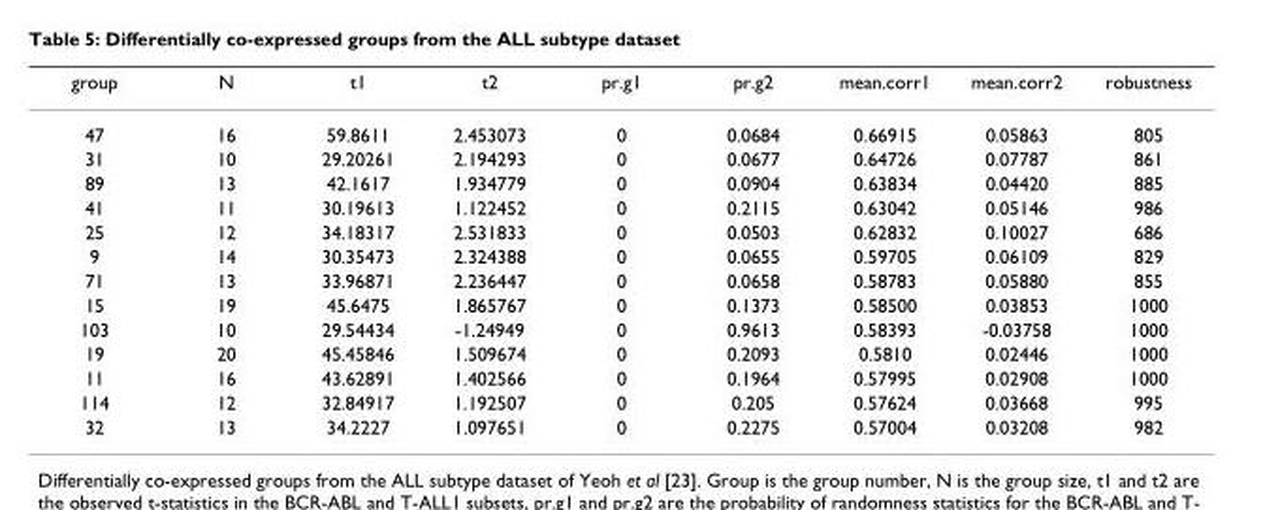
<table><thead><tr><td>group</td><td>N</td><td>t1</td><td>t2</td><td>pr.g1</td><td>pr.g2</td><td>mean.corr1</td><td>mean.corr2</td><td>robustness</td></tr></thead><tbody><tr><td>47</td><td>16</td><td>59.8611</td><td>2.453073</td><td>0</td><td>0.0684</td><td>0.66915</td><td>0.05863</td><td>805</td></tr><tr><td>31</td><td>10</td><td>29.20261</td><td>2.194293</td><td>0</td><td>0.0677</td><td>0.64726</td><td>0.07787</td><td>861</td></tr><tr><td>89</td><td>13</td><td>42.1617</td><td>1.934779</td><td>0</td><td>0.0904</td><td>0.63834</td><td>0.04420</td><td>885</td></tr><tr><td>41</td><td>11</td><td>30.19613</td><td>1.122452</td><td>0</td><td>0.2115</td><td>0.63042</td><td>0.05146</td><td>986</td></tr><tr><td>25</td><td>12</td><td>34.18317</td><td>2.531833</td><td>0</td><td>0.0503</td><td>0.62832</td><td>0.10027</td><td>686</td></tr><tr><td>9</td><td>14</td><td>30.35473</td><td>2.324388</td><td>0</td><td>0.0655</td><td>0.59705</td><td>0.06109</td><td>829</td></tr><tr><td>71</td><td>13</td><td>33.96871</td><td>2.236447</td><td>0</td><td>0.0658</td><td>0.58783</td><td>0.05880</td><td>855</td></tr><tr><td>15</td><td>19</td><td>45.6475</td><td>1.865767</td><td>0</td><td>0.1373</td><td>0.58500</td><td>0.03853</td><td>1000</td></tr><tr><td>103</td><td>10</td><td>29.54434</td><td>-1.24949</td><td>0</td><td>0.9613</td><td>0.58393</td><td>-0.03758</td><td>1000</td></tr><tr><td>19</td><td>20</td><td>45.45846</td><td>1.509674</td><td>0</td><td>0.2093</td><td>0.5810</td><td>0.02446</td><td>1000</td></tr><tr><td>11</td><td>16</td><td>43.62891</td><td>1.402566</td><td>0</td><td>0.1964</td><td>0.57995</td><td>0.02908</td><td>1000</td></tr><tr><td>114</td><td>12</td><td>32.84917</td><td>1.192507</td><td>0</td><td>0.205</td><td>0.57624</td><td>0.03668</td><td>995</td></tr><tr><td>32</td><td>13</td><td>34.2227</td><td>1.097651</td><td>0</td><td>0.2275</td><td>0.57004</td><td>0.03208</td><td>982</td></tr></tbody></table>